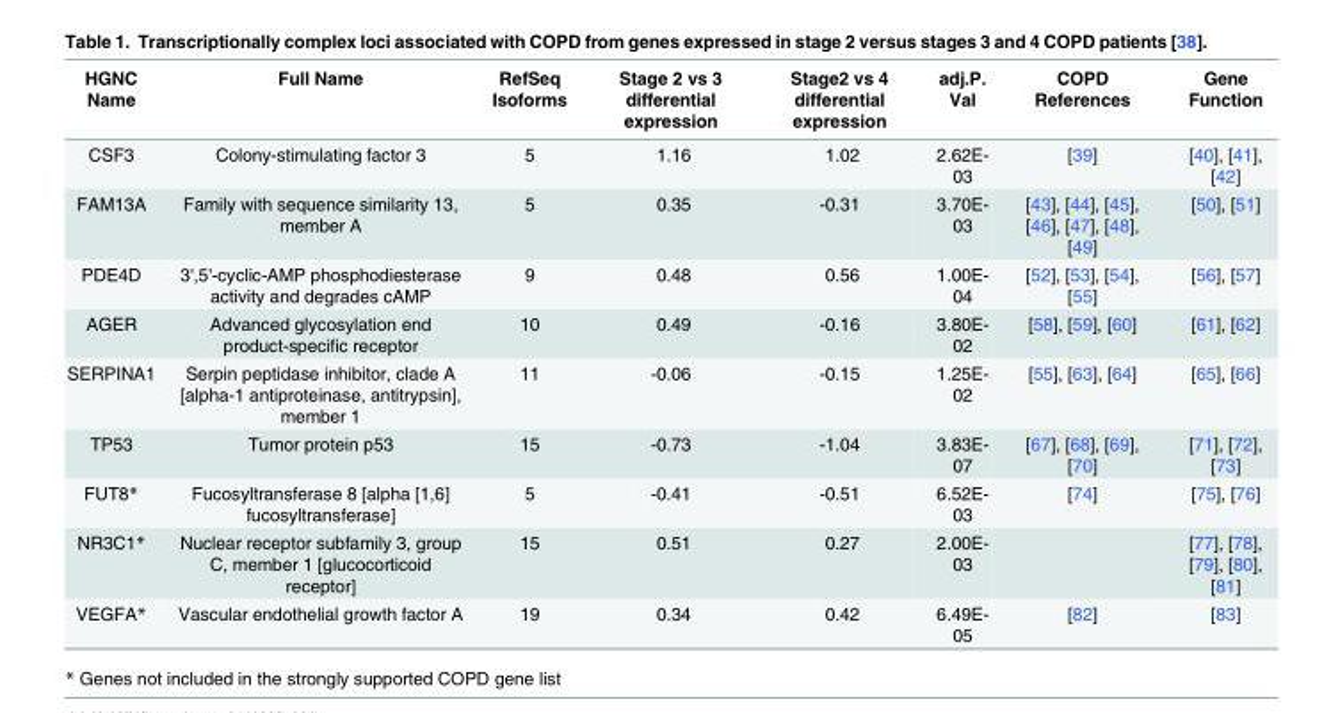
<table><thead><tr><td>HGNC Name</td><td>Full Name</td><td>RefSeq Isoforms</td><td>Stage 2 vs 3 differential expression</td><td>Stage2 vs 4 differential expression</td><td>adj.P. Val</td><td>COPD References</td><td>Gene Function</td></tr></thead><tbody><tr><td>CSF3</td><td>Colony-stimulating factor 3</td><td>5</td><td>1.16</td><td>1.02</td><td>2.62E- 03</td><td>[39]</td><td>[40], [41], [42]</td></tr><tr><td>FAM13A</td><td>Family with sequence similarity 13, member A</td><td>5</td><td>0.35</td><td>-0.31</td><td>3.70E- 03</td><td>[43], [44], [45], [46], [47], [48], [49]</td><td>[50], [51]</td></tr><tr><td>PDE4D</td><td>3&#x27;,5&#x27;-cyclic-AMP phosphodiesterase activity and degrades cAMP</td><td>9</td><td>0.48</td><td>0.56</td><td>1.00E- 04</td><td>[52], [53], [54], [55]</td><td>[56], [57]</td></tr><tr><td>AGER</td><td>Advanced glycosylation end product-specific receptor</td><td>10</td><td>0.49</td><td>-0.16</td><td>3.80E- 02</td><td>[58], [59], [60]</td><td>[61], [62]</td></tr><tr><td>SERPINA1</td><td>Serpin peptidase inhibitor, clade A [alpha-1 antiproteinase, antitrypsin], member 1</td><td>11</td><td>-0.06</td><td>-0.15</td><td>1.25E- 02</td><td>[55], [63], [64]</td><td>[65], [66]</td></tr><tr><td>TP53</td><td>Tumor protein p53</td><td>15</td><td>-0.73</td><td>-1.04</td><td>3.83E- 07</td><td>[67], [68], [69], [70]</td><td>[71], [72], [73]</td></tr><tr><td>FUT8*</td><td>Fucosyltransferase 8 [alpha [1,6] fucosyltransferase]</td><td>5</td><td>-0.41</td><td>-0.51</td><td>6.52E- 03</td><td>[74]</td><td>[75], [76]</td></tr><tr><td>NR3C1*</td><td>Nuclear receptor subfamily 3, group C, member 1 [glucocorticoid receptor]</td><td>15</td><td>0.51</td><td>0.27</td><td>2.00E- 03</td><td></td><td>[77], [78], [79], [80], [81]</td></tr><tr><td>VEGFA*</td><td>Vascular endothelial growth factor A</td><td>19</td><td>0.34</td><td>0.42</td><td>6.49E- 05</td><td>[82]</td><td>[83]</td></tr></tbody></table>